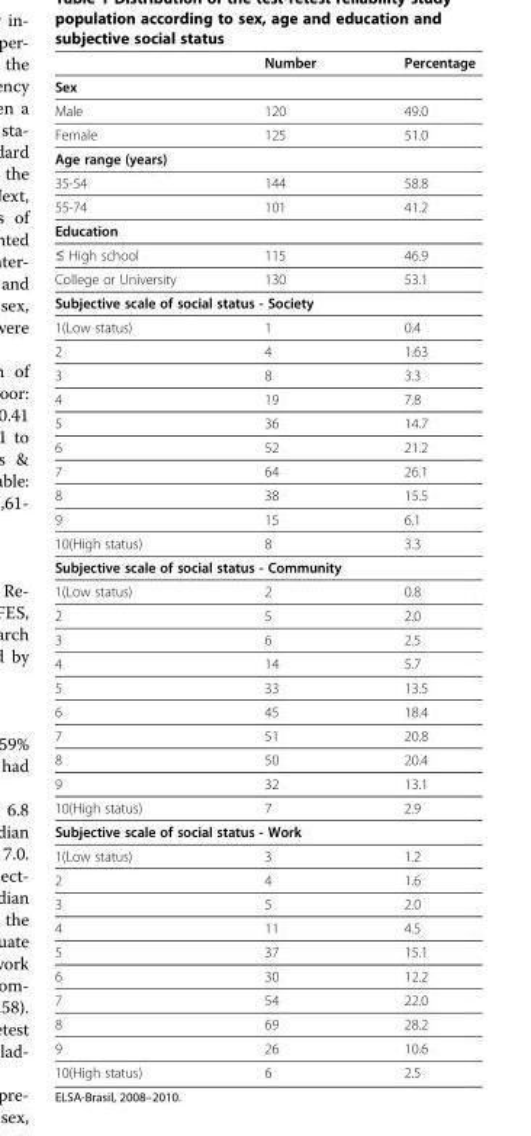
<table><thead><tr><td></td><td>Number</td><td>Percentage</td></tr></thead><tbody><tr><td colspan="3">Sex</td></tr><tr><td>Male</td><td>120</td><td>49.0</td></tr><tr><td>Female</td><td>125</td><td>51.0</td></tr><tr><td colspan="3">Age range (years)</td></tr><tr><td>35-54</td><td>144</td><td>58.8</td></tr><tr><td>55-74</td><td>101</td><td>41.2</td></tr><tr><td colspan="3">Education</td></tr><tr><td>≤ High school</td><td>115</td><td>46.9</td></tr><tr><td>College or University</td><td>130</td><td>53.1</td></tr><tr><td colspan="3">Subjective scale of social status - Society</td></tr><tr><td>1(Low status)</td><td>1</td><td>0.4</td></tr><tr><td>2</td><td>4</td><td>1.63</td></tr><tr><td>3</td><td>8</td><td>3.3</td></tr><tr><td>4</td><td>19</td><td>7.8</td></tr><tr><td>5</td><td>36</td><td>14.7</td></tr><tr><td>6</td><td>52</td><td>21.2</td></tr><tr><td>7</td><td>64</td><td>26.1</td></tr><tr><td>8</td><td>38</td><td>15.5</td></tr><tr><td>9</td><td>15</td><td>6.1</td></tr><tr><td>10(High status)</td><td>8</td><td>3.3</td></tr><tr><td colspan="3">Subjective scale of social status - Community</td></tr><tr><td>1(Low status)</td><td>2</td><td>0.8</td></tr><tr><td>2</td><td>5</td><td>2.0</td></tr><tr><td>3</td><td>6</td><td>2.5</td></tr><tr><td>4</td><td>14</td><td>5.7</td></tr><tr><td>5</td><td>33</td><td>13.5</td></tr><tr><td>6</td><td>45</td><td>18.4</td></tr><tr><td>7</td><td>51</td><td>20.8</td></tr><tr><td>8</td><td>50</td><td>20.4</td></tr><tr><td>9</td><td>32</td><td>13.1</td></tr><tr><td>10(High status)</td><td>7</td><td>2.9</td></tr><tr><td colspan="3">Subjective scale of social status - Work</td></tr><tr><td>1(Low status)</td><td>3</td><td>1.2</td></tr><tr><td>2</td><td>4</td><td>1.6</td></tr><tr><td>3</td><td>5</td><td>2.0</td></tr><tr><td>4</td><td>11</td><td>4.5</td></tr><tr><td>5</td><td>37</td><td>15.1</td></tr><tr><td>6</td><td>30</td><td>12.2</td></tr><tr><td>7</td><td>54</td><td>22.0</td></tr><tr><td>8</td><td>69</td><td>28.2</td></tr><tr><td>9</td><td>26</td><td>10.6</td></tr><tr><td>10(High status)</td><td>6</td><td>2.5</td></tr></tbody></table>